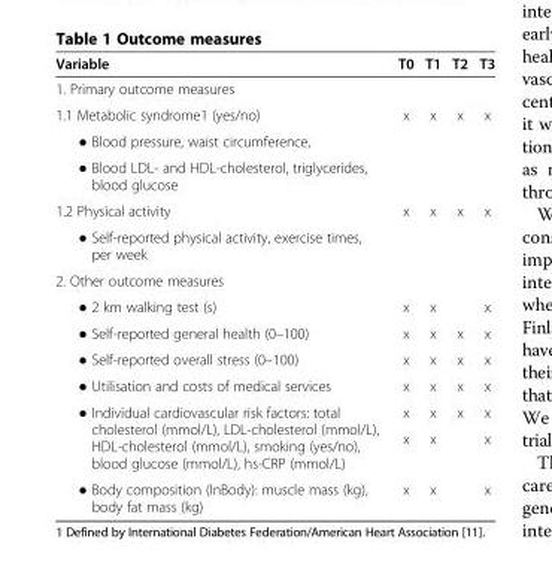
<table><thead><tr><td>Variable</td><td>T0</td><td>T1</td><td>T2</td><td>T3</td></tr></thead><tbody><tr><td colspan="5">1. Primary outcome measures</td></tr><tr><td>1.1 Metabolic syndrome1 (yes/no)</td><td>x</td><td>x</td><td>x</td><td>x</td></tr><tr><td colspan="5">● Blood pressure, waist circumference,</td></tr><tr><td colspan="5">● Blood LDL- and HDL-cholesterol, triglycerides, blood glucose</td></tr><tr><td>1.2 Physical activity</td><td>x</td><td>x</td><td>x</td><td>x</td></tr><tr><td colspan="5">● Self-reported physical activity, exercise times, per week</td></tr><tr><td colspan="5">2. Other outcome measures</td></tr><tr><td>● 2 km walking test (s)</td><td>x</td><td>x</td><td></td><td>x</td></tr><tr><td>● Self-reported general health (0–100)</td><td>x</td><td>x</td><td>x</td><td>x</td></tr><tr><td>● Self-reported overall stress (0–100)</td><td>x</td><td>x</td><td>x</td><td>x</td></tr><tr><td>● Utilisation and costs of medical services</td><td>x</td><td>x</td><td>x</td><td>x</td></tr><tr><td rowspan="2">● Individual cardiovascular risk factors: total cholesterol (mmol/L), LDL-cholesterol (mmol/L), HDL-cholesterol (mmol/L), smoking (yes/no), blood glucose (mmol/L), hs-CRP (mmol/L)</td><td>x</td><td>x</td><td>x</td><td>x</td></tr><tr><td>x</td><td>x</td><td></td><td>x</td></tr><tr><td>● Body composition (InBody): muscle mass (kg), body fat mass (kg)</td><td>x</td><td>x</td><td></td><td>x</td></tr></tbody></table>